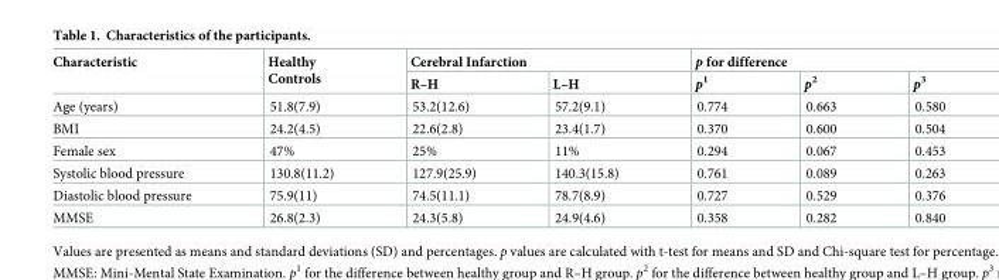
<table><thead><tr><td rowspan="2">Characteristic</td><td rowspan="2">Healthy Controls</td><td colspan="2">Cerebral Infarction</td><td colspan="3">p for difference</td></tr><tr><td>R–H</td><td>L–H</td><td>p<sup>1</sup></td><td>p<sup>2</sup></td><td>p<sup>3</sup></td></tr></thead><tbody><tr><td>Age (years)</td><td>51.8(7.9)</td><td>53.2(12.6)</td><td>57.2(9.1)</td><td>0.774</td><td>0.663</td><td>0.580</td></tr><tr><td>BMI</td><td>24.2(4.5)</td><td>22.6(2.8)</td><td>23.4(1.7)</td><td>0.370</td><td>0.600</td><td>0.504</td></tr><tr><td>Female sex</td><td>47%</td><td>25%</td><td>11%</td><td>0.294</td><td>0.067</td><td>0.453</td></tr><tr><td>Systolic blood pressure</td><td>130.8(11.2)</td><td>127.9(25.9)</td><td>140.3(15.8)</td><td>0.761</td><td>0.089</td><td>0.263</td></tr><tr><td>Diastolic blood pressure</td><td>75.9(11)</td><td>74.5(11.1)</td><td>78.7(8.9)</td><td>0.727</td><td>0.529</td><td>0.376</td></tr><tr><td>MMSE</td><td>26.8(2.3)</td><td>24.3(5.8)</td><td>24.9(4.6)</td><td>0.358</td><td>0.282</td><td>0.840</td></tr></tbody></table>